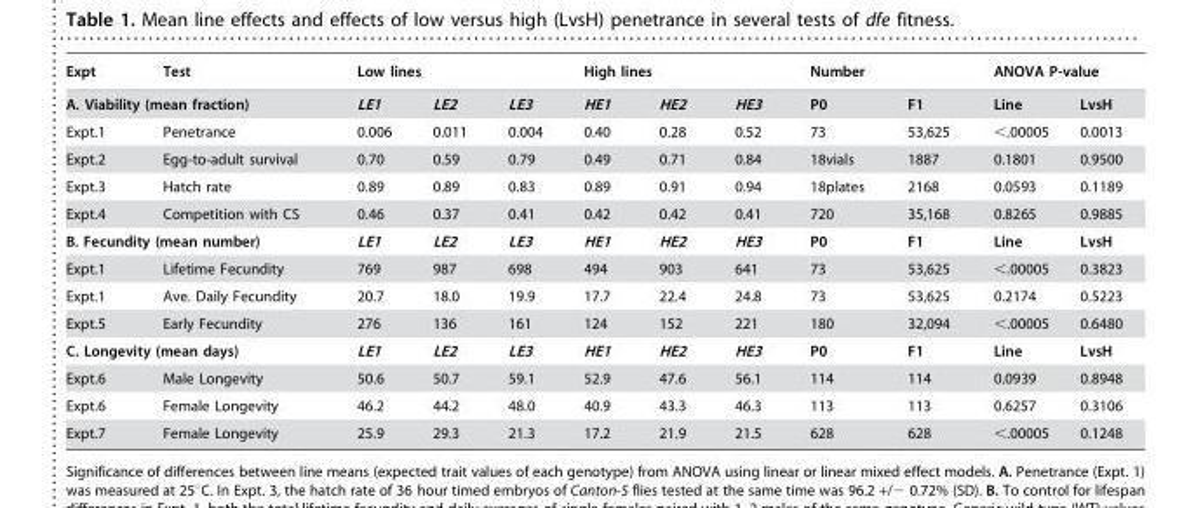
<table><thead><tr><td>Expt</td><td>Test</td><td colspan="3">Low lines</td><td colspan="3">High lines</td><td colspan="2">Number</td><td colspan="2">ANOVA P-value</td></tr><tr><td colspan="2">A. Viability (mean fraction)</td><td>LE1</td><td>LE2</td><td>LE3</td><td>HE1</td><td>HE2</td><td>HE3</td><td>P0</td><td>F1</td><td>Line</td><td>LvsH</td></tr></thead><tbody><tr><td>Expt.1</td><td>Penetrance</td><td>0.006</td><td>0.011</td><td>0.004</td><td>0.40</td><td>0.28</td><td>0.52</td><td>73</td><td>53,625</td><td>&lt;.00005</td><td>0.0013</td></tr><tr><td>Expt.2</td><td>Egg-to-adult survival</td><td>0.70</td><td>0.59</td><td>0.79</td><td>0.49</td><td>0.71</td><td>0.84</td><td>18vials</td><td>1887</td><td>0.1801</td><td>0.9500</td></tr><tr><td>Expt.3</td><td>Hatch rate</td><td>0.89</td><td>0.89</td><td>0.83</td><td>0.89</td><td>0.91</td><td>0.94</td><td>18plates</td><td>2168</td><td>0.0593</td><td>0.1189</td></tr><tr><td>Expt.4</td><td>Competition with CS</td><td>0.46</td><td>0.37</td><td>0.41</td><td>0.42</td><td>0.42</td><td>0.41</td><td>720</td><td>35,168</td><td>0.8265</td><td>0.9885</td></tr><tr><td colspan="2">B. Fecundity (mean number)</td><td>LE1</td><td>LE2</td><td>LE3</td><td>HE1</td><td>HE2</td><td>HE3</td><td>P0</td><td>F1</td><td>Line</td><td>LvsH</td></tr><tr><td>Expt.1</td><td>Lifetime Fecundity</td><td>769</td><td>987</td><td>698</td><td>494</td><td>903</td><td>641</td><td>73</td><td>53,625</td><td>&lt;.00005</td><td>0.3823</td></tr><tr><td>Expt.1</td><td>Ave. Daily Fecundity</td><td>20.7</td><td>18.0</td><td>19.9</td><td>17.7</td><td>22.4</td><td>24.8</td><td>73</td><td>53,625</td><td>0.2174</td><td>0.5223</td></tr><tr><td>Expt.5</td><td>Early Fecundity</td><td>276</td><td>136</td><td>161</td><td>124</td><td>152</td><td>221</td><td>180</td><td>32,094</td><td>&lt;.00005</td><td>0.6480</td></tr><tr><td colspan="2">C. Longevity (mean days)</td><td>LE1</td><td>LE2</td><td>LE3</td><td>HE1</td><td>HE2</td><td>HE3</td><td>P0</td><td>F1</td><td>Line</td><td>LvsH</td></tr><tr><td>Expt.6</td><td>Male Longevity</td><td>50.6</td><td>50.7</td><td>59.1</td><td>52.9</td><td>47.6</td><td>56.1</td><td>114</td><td>114</td><td>0.0939</td><td>0.8948</td></tr><tr><td>Expt.6</td><td>Female Longevity</td><td>46.2</td><td>44.2</td><td>48.0</td><td>40.9</td><td>43.3</td><td>46.3</td><td>113</td><td>113</td><td>0.6257</td><td>0.3106</td></tr><tr><td>Expt.7</td><td>Female Longevity</td><td>25.9</td><td>29.3</td><td>21.3</td><td>17.2</td><td>21.9</td><td>21.5</td><td>628</td><td>628</td><td>&lt;.00005</td><td>0.1248</td></tr></tbody></table>